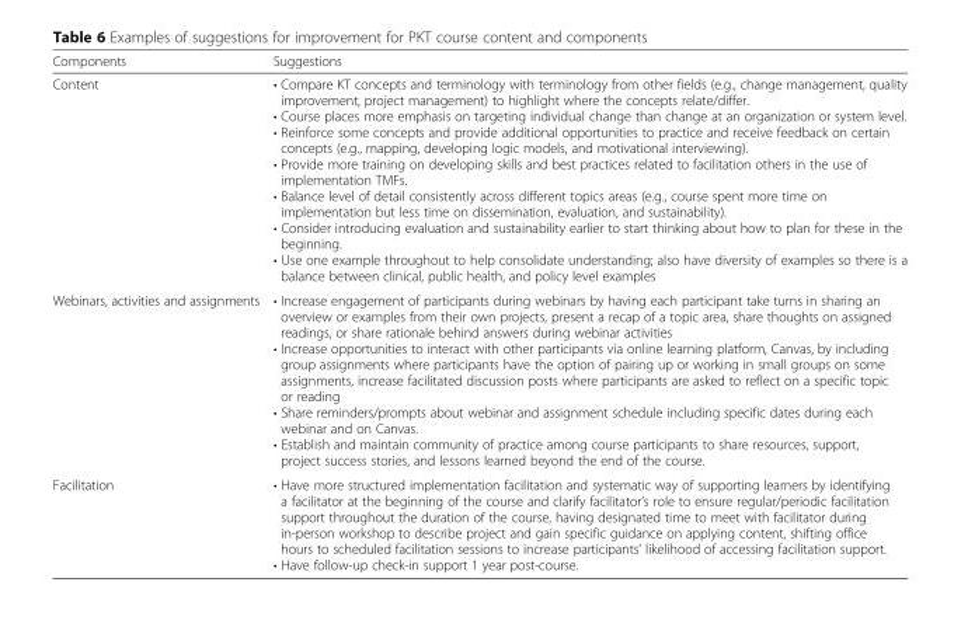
<table><thead><tr><td>Components</td><td>Suggestions</td></tr></thead><tbody><tr><td>Content</td><td>• Compare KT concepts and terminology with terminology from other fields (e.g., change management, quality improvement, project management) to highlight where the concepts relate/differ. • Course places more emphasis on targeting individual change than change at an organization or system level. • Reinforce some concepts and provide additional opportunities to practice and receive feedback on certain concepts (e.g., mapping, developing logic models, and motivational interviewing). • Provide more training on developing skills and best practices related to facilitation others in the use of implementation TMFs. • Balance level of detail consistently across different topics areas (e.g., course spent more time on implementation but less time on dissemination, evaluation, and sustainability). • Consider introducing evaluation and sustainability earlier to start thinking about how to plan for these in the beginning. • Use one example throughout to help consolidate understanding; also have diversity of examples so there is a balance between clinical, public health, and policy level examples</td></tr><tr><td>Webinars, activities and assignments</td><td>• Increase engagement of participants during webinars by having each participant take turns in sharing an overview or examples from their own projects, present a recap of a topic area, share thoughts on assigned readings, or share rationale behind answers during webinar activities • Increase opportunities to interact with other participants via online learning platform, Canvas, by including group assignments where participants have the option of pairing up or working in small groups on some assignments, increase facilitated discussion posts where participants are asked to reflect on a specific topic or reading • Share reminders/prompts about webinar and assignment schedule including specific dates during each webinar and on Canvas. • Establish and maintain community of practice among course participants to share resources, support, project success stories, and lessons learned beyond the end of the course.</td></tr><tr><td>Facilitation</td><td>• Have more structured implementation facilitation and systematic way of supporting learners by identifying a facilitator at the beginning of the course and clarify facilitator’s role to ensure regular/periodic facilitation support throughout the duration of the course, having designated time to meet with facilitator during in-person workshop to describe project and gain specific guidance on applying content, shifting office hours to scheduled facilitation sessions to increase participants’ likelihood of accessing facilitation support. • Have follow-up check-in support 1 year post-course.</td></tr></tbody></table>